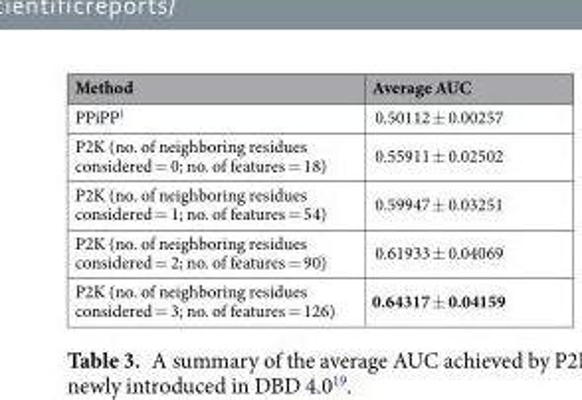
<table><thead><tr><td>Method</td><td>Average AUC</td></tr></thead><tbody><tr><td>PPiPP<sup>1</sup></td><td>0.50112 ± 0.00257</td></tr><tr><td>P2K (no. of neighboring residues considered = 0; no. of features = 18)</td><td>0.55911 ± 0.02502</td></tr><tr><td>P2K (no. of neighboring residues considered = 1; no. of features = 54)</td><td>0.59947 ± 0.03251</td></tr><tr><td>P2K (no. of neighboring residues considered = 2; no. of features = 90)</td><td>0.61933 ± 0.04069</td></tr><tr><td>P2K (no. of neighboring residues considered = 3; no. of features = 126)</td><td>0.64317 ± 0.04159</td></tr></tbody></table>